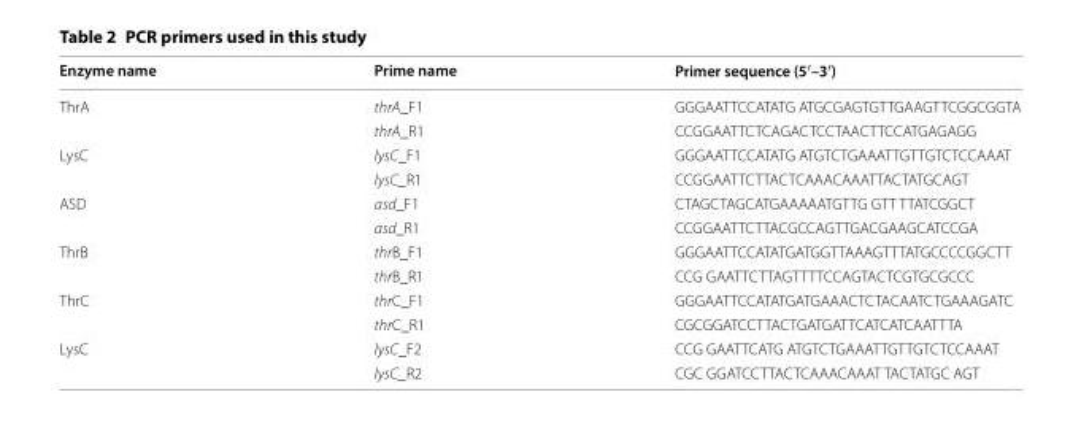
<table><thead><tr><td>Enzyme name</td><td>Prime name</td><td>Primer sequence (5′–3′)</td></tr></thead><tbody><tr><td rowspan="2">ThrA</td><td>thrA_F1</td><td>GGGAATTCCATATG ATGCGAGTGTTGAAGTTCGGCGGTA</td></tr><tr><td>thrA_R1</td><td>CCGGAATTCTCAGACTCCTAACTTCCATGAGAGG</td></tr><tr><td rowspan="2">LysC</td><td>lysC_F1</td><td>GGGAATTCCATATG ATGTCTGAAATTGTTGTCTCCAAAT</td></tr><tr><td>lysC_R1</td><td>CCGGAATTCTTACTCAAACAAATTACTATGCAGT</td></tr><tr><td rowspan="2">ASD</td><td>asd_F1</td><td>CTAGCTAGCATGAAAAATGTTG GTT TTATCGGCT</td></tr><tr><td>asd_R1</td><td>CCGGAATTCTTACGCCAGTTGACGAAGCATCCGA</td></tr><tr><td rowspan="2">ThrB</td><td>thrB_F1</td><td>GGGAATTCCATATGATGGTTAAAGTTTATGCCCCGGCTT</td></tr><tr><td>thrB_R1</td><td>CCG GAATTCTTAGTTTTCCAGTACTCGTGCGCCC</td></tr><tr><td rowspan="2">ThrC</td><td>thrC_F1</td><td>GGGAATTCCATATGATGAAACTCTACAATCTGAAAGATC</td></tr><tr><td>thrC_R1</td><td>CGCGGATCCTTACTGATGATTCATCATCAATTTA</td></tr><tr><td rowspan="2">LysC</td><td>lysC_F2</td><td>CCG GAATTCATG ATGTCTGAAATTGTTGTCTCCAAAT</td></tr><tr><td>lysC_R2</td><td>CGC GGATCCTTACTCAAACAAAT TACTATGC AGT</td></tr></tbody></table>